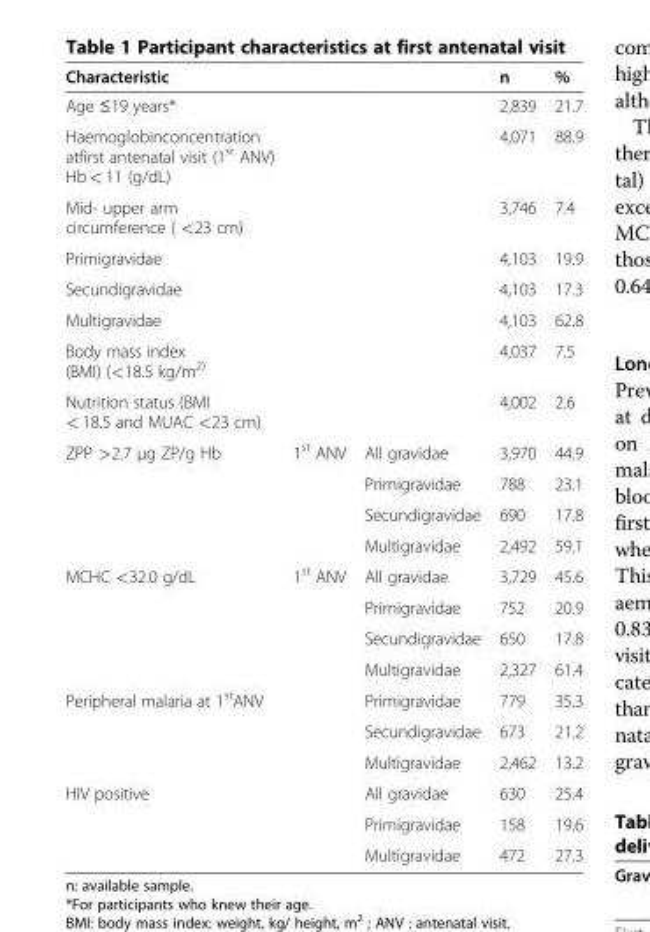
<table><thead><tr><td>Characteristic</td><td></td><td></td><td>n</td><td>%</td></tr></thead><tbody><tr><td>Age ≤19 years*</td><td></td><td></td><td>2,839</td><td>21.7</td></tr><tr><td>Haemoglobinconcentration atfirst antenatal visit (1<sup>st</sup> ANV) Hb &lt; 11 (g/dL)</td><td></td><td></td><td>4,071</td><td>88.9</td></tr><tr><td>Mid- upper arm circumference ( &lt;23 cm)</td><td></td><td></td><td>3,746</td><td>7.4</td></tr><tr><td>Primigravidae</td><td></td><td></td><td>4,103</td><td>19.9</td></tr><tr><td>Secundigravidae</td><td></td><td></td><td>4,103</td><td>17.3</td></tr><tr><td>Multigravidae</td><td></td><td></td><td>4,103</td><td>62.8</td></tr><tr><td>Body mass index (BMI) (&lt;18.5 kg/m<sup>2)</sup></td><td></td><td></td><td>4,037</td><td>7.5</td></tr><tr><td>Nutrition status (BMI &lt; 18.5 and MUAC &lt;23 cm)</td><td></td><td></td><td>4,002</td><td>2.6</td></tr><tr><td rowspan="4">ZPP &gt;2.7 μg ZP/g Hb</td><td>1<sup>st</sup> ANV</td><td>All gravidae</td><td>3,970</td><td>44.9</td></tr><tr><td></td><td>Primigravidae</td><td>788</td><td>23.1</td></tr><tr><td></td><td>Secundigravidae</td><td>690</td><td>17.8</td></tr><tr><td></td><td>Multigravidae</td><td>2,492</td><td>59.1</td></tr><tr><td rowspan="4">MCHC &lt;32.0 g/dL</td><td>1<sup>st</sup> ANV</td><td>All gravidae</td><td>3,729</td><td>45.6</td></tr><tr><td></td><td>Primigravidae</td><td>752</td><td>20.9</td></tr><tr><td></td><td>Secundigravidae</td><td>650</td><td>17.8</td></tr><tr><td></td><td>Multigravidae</td><td>2,327</td><td>61.4</td></tr><tr><td rowspan="3">Peripheral malaria at 1<sup>st</sup>ANV</td><td></td><td>Primigravidae</td><td>779</td><td>35.3</td></tr><tr><td></td><td>Secundigravidae</td><td>673</td><td>21.2</td></tr><tr><td></td><td>Multigravidae</td><td>2,462</td><td>13.2</td></tr><tr><td rowspan="3">HIV positive</td><td></td><td>All gravidae</td><td>630</td><td>25.4</td></tr><tr><td></td><td>Primigravidae</td><td>158</td><td>19.6</td></tr><tr><td></td><td>Multigravidae</td><td>472</td><td>27.3</td></tr></tbody></table>